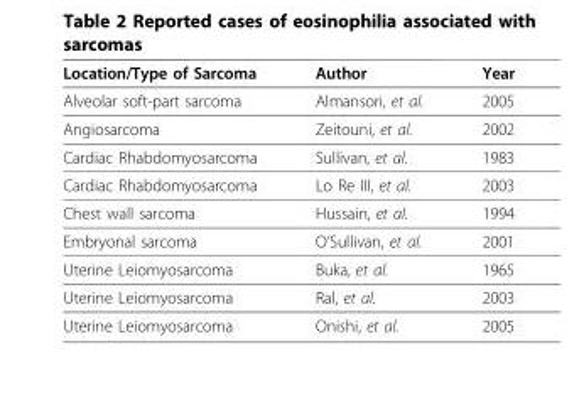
<table><thead><tr><td>Location/Type of Sarcoma</td><td>Author</td><td>Year</td></tr></thead><tbody><tr><td>Alveolar soft-part sarcoma</td><td>Almansori, et al.</td><td>2005</td></tr><tr><td>Angiosarcoma</td><td>Zeitouni, et al.</td><td>2002</td></tr><tr><td>Cardiac Rhabdomyosarcoma</td><td>Sullivan, et al.</td><td>1983</td></tr><tr><td>Cardiac Rhabdomyosarcoma</td><td>Lo Re III, et al.</td><td>2003</td></tr><tr><td>Chest wall sarcoma</td><td>Hussain, et al.</td><td>1994</td></tr><tr><td>Embryonal sarcoma</td><td>O’Sullivan, et al.</td><td>2001</td></tr><tr><td>Uterine Leiomyosarcoma</td><td>Buka, et al.</td><td>1965</td></tr><tr><td>Uterine Leiomyosarcoma</td><td>Ral, et al.</td><td>2003</td></tr><tr><td>Uterine Leiomyosarcoma</td><td>Onishi, et al.</td><td>2005</td></tr></tbody></table>